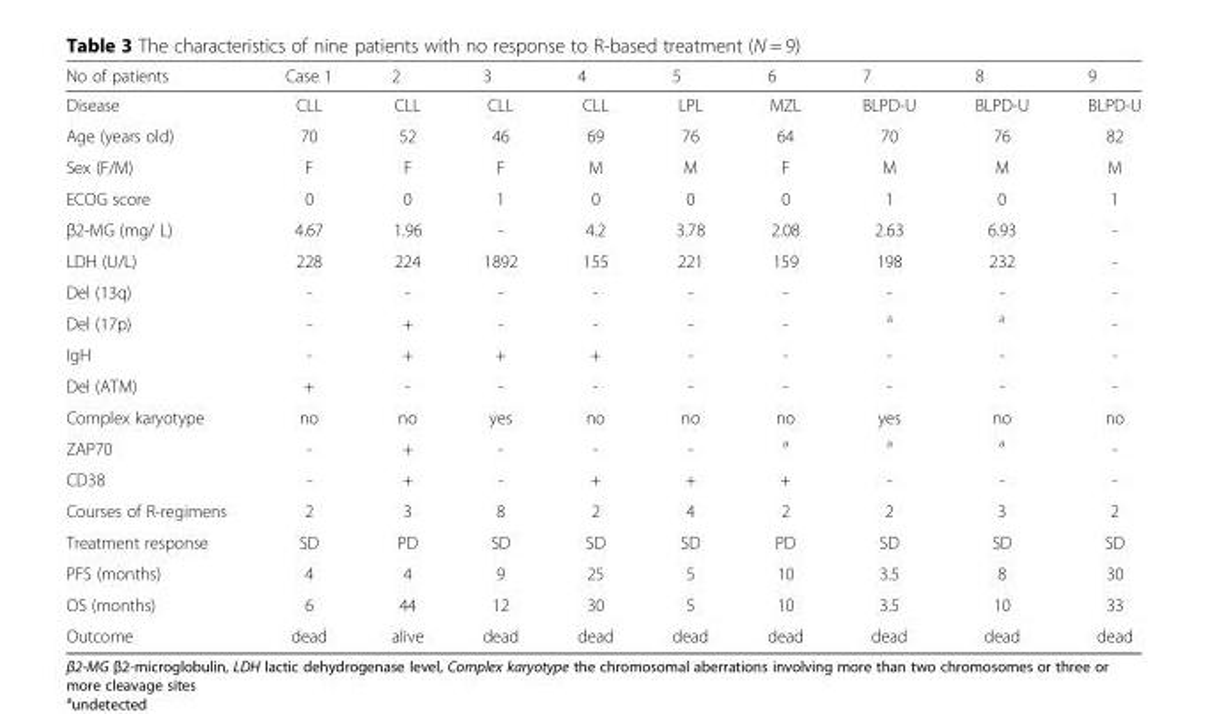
<table><thead><tr><td>No of patients</td><td>Case 1</td><td>2</td><td>3</td><td>4</td><td>5</td><td>6</td><td>7</td><td>8</td><td>9</td></tr></thead><tbody><tr><td>Disease</td><td>CLL</td><td>CLL</td><td>CLL</td><td>CLL</td><td>LPL</td><td>MZL</td><td>BLPD-U</td><td>BLPD-U</td><td>BLPD-U</td></tr><tr><td>Age (years old)</td><td>70</td><td>52</td><td>46</td><td>69</td><td>76</td><td>64</td><td>70</td><td>76</td><td>82</td></tr><tr><td>Sex (F/M)</td><td>F</td><td>F</td><td>F</td><td>M</td><td>M</td><td>F</td><td>M</td><td>M</td><td>M</td></tr><tr><td>ECOG score</td><td>0</td><td>0</td><td>1</td><td>0</td><td>0</td><td>0</td><td>1</td><td>0</td><td>1</td></tr><tr><td>β2-MG (mg/ L)</td><td>4.67</td><td>1.96</td><td>-</td><td>4.2</td><td>3.78</td><td>2.08</td><td>2.63</td><td>6.93</td><td>-</td></tr><tr><td>LDH (U/L)</td><td>228</td><td>224</td><td>1892</td><td>155</td><td>221</td><td>159</td><td>198</td><td>232</td><td>-</td></tr><tr><td>Del (13q)</td><td>-</td><td>-</td><td>-</td><td>-</td><td>-</td><td>-</td><td>-</td><td>-</td><td>-</td></tr><tr><td>Del (17p)</td><td>-</td><td>+</td><td>-</td><td>-</td><td>-</td><td>-</td><td><sup>a</sup></td><td><sup>a</sup></td><td>-</td></tr><tr><td>IgH</td><td>-</td><td>+</td><td>+</td><td>+</td><td>-</td><td>-</td><td>-</td><td>-</td><td>-</td></tr><tr><td>Del (ATM)</td><td>+</td><td>-</td><td>-</td><td>-</td><td>-</td><td>-</td><td>-</td><td>-</td><td>-</td></tr><tr><td>Complex karyotype</td><td>no</td><td>no</td><td>yes</td><td>no</td><td>no</td><td>no</td><td>yes</td><td>no</td><td>no</td></tr><tr><td>ZAP70</td><td>-</td><td>+</td><td>-</td><td>-</td><td>-</td><td><sup>a</sup></td><td><sup>a</sup></td><td><sup>a</sup></td><td>-</td></tr><tr><td>CD38</td><td>-</td><td>+</td><td>-</td><td>+</td><td>+</td><td>+</td><td>-</td><td>-</td><td>-</td></tr><tr><td>Courses of R-regimens</td><td>2</td><td>3</td><td>8</td><td>2</td><td>4</td><td>2</td><td>2</td><td>3</td><td>2</td></tr><tr><td>Treatment response</td><td>SD</td><td>PD</td><td>SD</td><td>SD</td><td>SD</td><td>PD</td><td>SD</td><td>SD</td><td>SD</td></tr><tr><td>PFS (months)</td><td>4</td><td>4</td><td>9</td><td>25</td><td>5</td><td>10</td><td>3.5</td><td>8</td><td>30</td></tr><tr><td>OS (months)</td><td>6</td><td>44</td><td>12</td><td>30</td><td>5</td><td>10</td><td>3.5</td><td>10</td><td>33</td></tr><tr><td>Outcome</td><td>dead</td><td>alive</td><td>dead</td><td>dead</td><td>dead</td><td>dead</td><td>dead</td><td>dead</td><td>dead</td></tr></tbody></table>